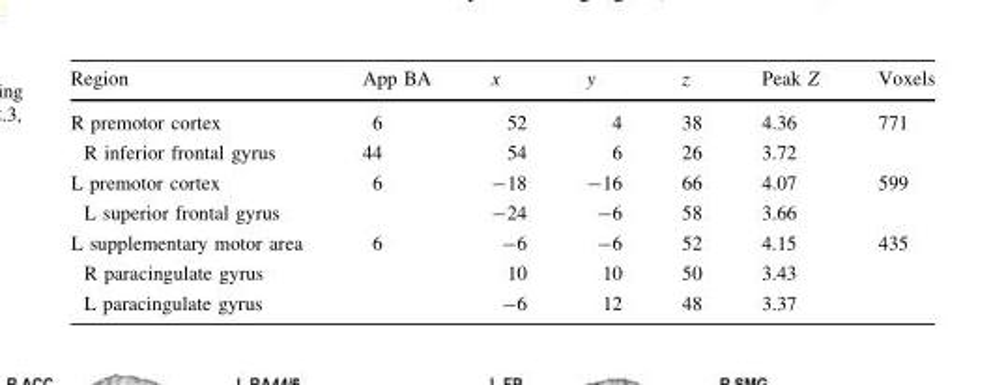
<table><thead><tr><td>Region</td><td>App BA</td><td>x</td><td>y</td><td>z</td><td>Peak Z</td><td>Voxels</td></tr></thead><tbody><tr><td>R premotor cortex</td><td>6</td><td>52</td><td>4</td><td>38</td><td>4.36</td><td>771</td></tr><tr><td>R inferior frontal gyrus</td><td>44</td><td>54</td><td>6</td><td>26</td><td>3.72</td><td></td></tr><tr><td>L premotor cortex</td><td>6</td><td>-18</td><td>-16</td><td>66</td><td>4.07</td><td>599</td></tr><tr><td>L superior frontal gyrus</td><td></td><td>-24</td><td>-6</td><td>58</td><td>3.66</td><td></td></tr><tr><td>L supplementary motor area</td><td>6</td><td>-6</td><td>-6</td><td>52</td><td>4.15</td><td>435</td></tr><tr><td>R paracingulate gyrus</td><td></td><td>10</td><td>10</td><td>50</td><td>3.43</td><td></td></tr><tr><td>L paracingulate gyrus</td><td></td><td>-6</td><td>12</td><td>48</td><td>3.37</td><td></td></tr></tbody></table>